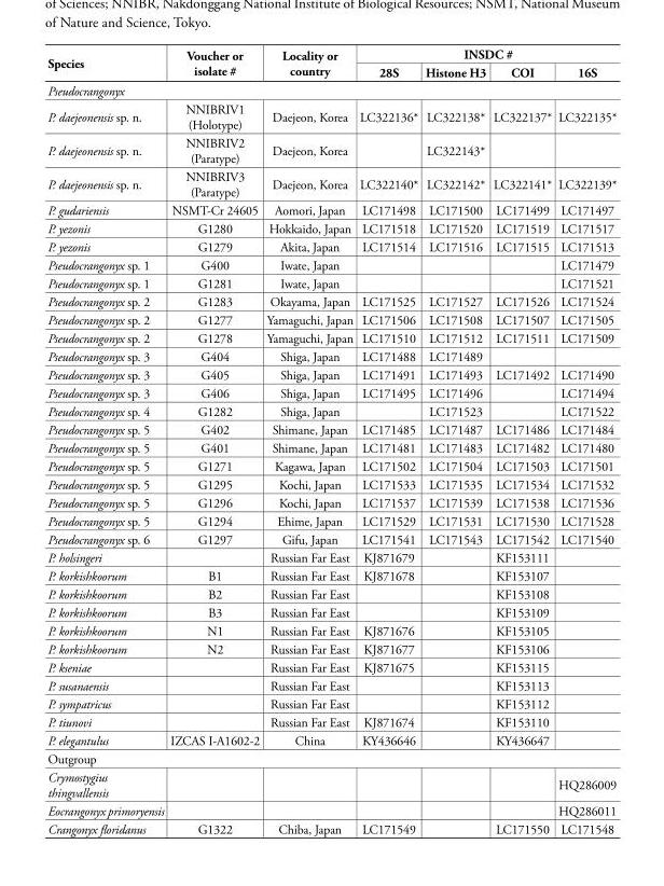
<table><thead><tr><td rowspan="2">Species</td><td rowspan="2">Voucher or isolate #</td><td rowspan="2">Locality or country</td><td colspan="4">INSDC #</td></tr><tr><td>28S</td><td>Histone H3</td><td>COI</td><td>16S</td></tr></thead><tbody><tr><td colspan="7">Pseudocrangonyx</td></tr><tr><td>P. daejeonensis sp. n.</td><td>NNIBRIV1 (Holotype)</td><td>Daejeon, Korea</td><td>LC322136*</td><td>LC322138*</td><td>LC322137*</td><td>LC322135*</td></tr><tr><td>P. daejeonensis sp. n.</td><td>NNIBRIV2 (Paratype)</td><td>Daejeon, Korea</td><td></td><td>LC322143*</td><td></td><td></td></tr><tr><td>P. daejeonensis sp. n.</td><td>NNIBRIV3 (Paratype)</td><td>Daejeon, Korea</td><td>LC322140*</td><td>LC322142*</td><td>LC322141*</td><td>LC322139*</td></tr><tr><td>P. gudariensis</td><td>NSMT-Cr 24605</td><td>Aomori, Japan</td><td>LC171498</td><td>LC171500</td><td>LC171499</td><td>LC171497</td></tr><tr><td>P. yezonis</td><td>G1280</td><td>Hokkaido, Japan</td><td>LC171518</td><td>LC171520</td><td>LC171519</td><td>LC171517</td></tr><tr><td>P. yezonis</td><td>G1279</td><td>Akita, Japan</td><td>LC171514</td><td>LC171516</td><td>LC171515</td><td>LC171513</td></tr><tr><td>Pseudocrangonyx sp. 1</td><td>G400</td><td>Iwate, Japan</td><td></td><td></td><td></td><td>LC171479</td></tr><tr><td>Pseudocrangonyx sp. 1</td><td>G1281</td><td>Iwate, Japan</td><td></td><td></td><td></td><td>LC171521</td></tr><tr><td>Pseudocrangonyx sp. 2</td><td>G1283</td><td>Okayama, Japan</td><td>LC171525</td><td>LC171527</td><td>LC171526</td><td>LC171524</td></tr><tr><td>Pseudocrangonyx sp. 2</td><td>G1277</td><td>Yamaguchi, Japan</td><td>LC171506</td><td>LC171508</td><td>LC171507</td><td>LC171505</td></tr><tr><td>Pseudocrangonyx sp. 2</td><td>G1278</td><td>Yamaguchi, Japan</td><td>LC171510</td><td>LC171512</td><td>LC171511</td><td>LC171509</td></tr><tr><td>Pseudocrangonyx sp. 3</td><td>G404</td><td>Shiga, Japan</td><td>LC171488</td><td>LC171489</td><td></td><td></td></tr><tr><td>Pseudocrangonyx sp. 3</td><td>G405</td><td>Shiga, Japan</td><td>LC171491</td><td>LC171493</td><td>LC171492</td><td>LC171490</td></tr><tr><td>Pseudocrangonyx sp. 3</td><td>G406</td><td>Shiga, Japan</td><td>LC171495</td><td>LC171496</td><td></td><td>LC171494</td></tr><tr><td>Pseudocrangonyx sp. 4</td><td>G1282</td><td>Shiga, Japan</td><td></td><td>LC171523</td><td></td><td>LC171522</td></tr><tr><td>Pseudocrangonyx sp. 5</td><td>G402</td><td>Shimane, Japan</td><td>LC171485</td><td>LC171487</td><td>LC171486</td><td>LC171484</td></tr><tr><td>Pseudocrangonyx sp. 5</td><td>G401</td><td>Shimane, Japan</td><td>LC171481</td><td>LC171483</td><td>LC171482</td><td>LC171480</td></tr><tr><td>Pseudocrangonyx sp. 5</td><td>G1271</td><td>Kagawa, Japan</td><td>LC171502</td><td>LC171504</td><td>LC171503</td><td>LC171501</td></tr><tr><td>Pseudocrangonyx sp. 5</td><td>G1295</td><td>Kochi, Japan</td><td>LC171533</td><td>LC171535</td><td>LC171534</td><td>LC171532</td></tr><tr><td>Pseudocrangonyx sp. 5</td><td>G1296</td><td>Kochi, Japan</td><td>LC171537</td><td>LC171539</td><td>LC171538</td><td>LC171536</td></tr><tr><td>Pseudocrangonyx sp. 5</td><td>G1294</td><td>Ehime, Japan</td><td>LC171529</td><td>LC171531</td><td>LC171530</td><td>LC171528</td></tr><tr><td>Pseudocrangonyx sp. 6</td><td>G1297</td><td>Gifu, Japan</td><td>LC171541</td><td>LC171543</td><td>LC171542</td><td>LC171540</td></tr><tr><td>P. holsingeri</td><td></td><td>Russian Far East</td><td>KJ871679</td><td></td><td>KF153111</td><td></td></tr><tr><td>P. korkishkoorum</td><td>B1</td><td>Russian Far East</td><td>KJ871678</td><td></td><td>KF153107</td><td></td></tr><tr><td>P. korkishkoorum</td><td>B2</td><td>Russian Far East</td><td></td><td></td><td>KF153108</td><td></td></tr><tr><td>P. korkishkoorum</td><td>B3</td><td>Russian Far East</td><td></td><td></td><td>KF153109</td><td></td></tr><tr><td>P. korkishkoorum</td><td>N1</td><td>Russian Far East</td><td>KJ871676</td><td></td><td>KF153105</td><td></td></tr><tr><td>P. korkishkoorum</td><td>N2</td><td>Russian Far East</td><td>KJ871677</td><td></td><td>KF153106</td><td></td></tr><tr><td>P. kseniae</td><td></td><td>Russian Far East</td><td>KJ871675</td><td></td><td>KF153115</td><td></td></tr><tr><td>P. susanaensis</td><td></td><td>Russian Far East</td><td></td><td></td><td>KF153113</td><td></td></tr><tr><td>P. sympatricus</td><td></td><td>Russian Far East</td><td></td><td></td><td>KF153112</td><td></td></tr><tr><td>P. tiunovi</td><td></td><td>Russian Far East</td><td>KJ871674</td><td></td><td>KF153110</td><td></td></tr><tr><td>P. elegantulus</td><td>IZCAS I-A1602-2</td><td>China</td><td>KY436646</td><td></td><td>KY436647</td><td></td></tr><tr><td colspan="7">Outgroup</td></tr><tr><td>Crymostygius thingvallensis</td><td></td><td></td><td></td><td></td><td></td><td>HQ286009</td></tr><tr><td>Eocrangonyx primoryensis</td><td></td><td></td><td></td><td></td><td></td><td>HQ286011</td></tr><tr><td>Crangonyx floridanus</td><td>G1322</td><td>Chiba, Japan</td><td>LC171549</td><td></td><td>LC171550</td><td>LC171548</td></tr></tbody></table>